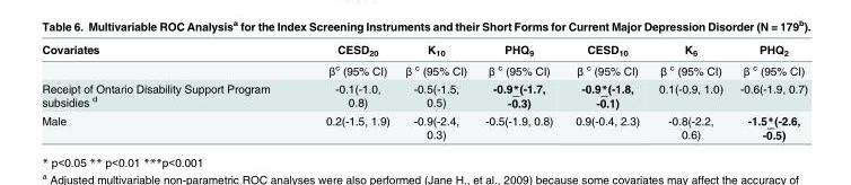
<table><thead><tr><td>Covariates</td><td>CESD<sub>20</sub></td><td>K<sub>10</sub></td><td>PHQ<sub>9</sub></td><td>CESD<sub>10</sub></td><td>K<sub>6</sub></td><td>PHQ<sub>2</sub></td></tr></thead><tbody><tr><td></td><td>β<sup>c</sup> (95% CI)</td><td>β <sup>c</sup> (95% CI)</td><td>β <sup>c</sup> (95% CI)</td><td>β <sup>c</sup> (95% CI)</td><td>β <sup>c</sup> (95% CI)</td><td>β <sup>c</sup> (95% CI)</td></tr><tr><td>Receipt of Ontario Disability Support Program subsidies <sup>d</sup></td><td>-0.1(-1.0, 0.8)</td><td>-0.5(-1.5, 0.5)</td><td>-0.9*(-1.7, -0.3)</td><td>-0.9*(-1.8, -0.1)</td><td>0.1(-0.9, 1.0)</td><td>-0.6(-1.9, 0.7)</td></tr><tr><td>Male</td><td>0.2(-1.5, 1.9)</td><td>-0.9(-2.4, 0.3)</td><td>-0.5(-1.9, 0.8)</td><td>0.9(-0.4, 2.3)</td><td>-0.8(-2.2, 0.6)</td><td>-1.5*(-2.6, -0.5)</td></tr></tbody></table>